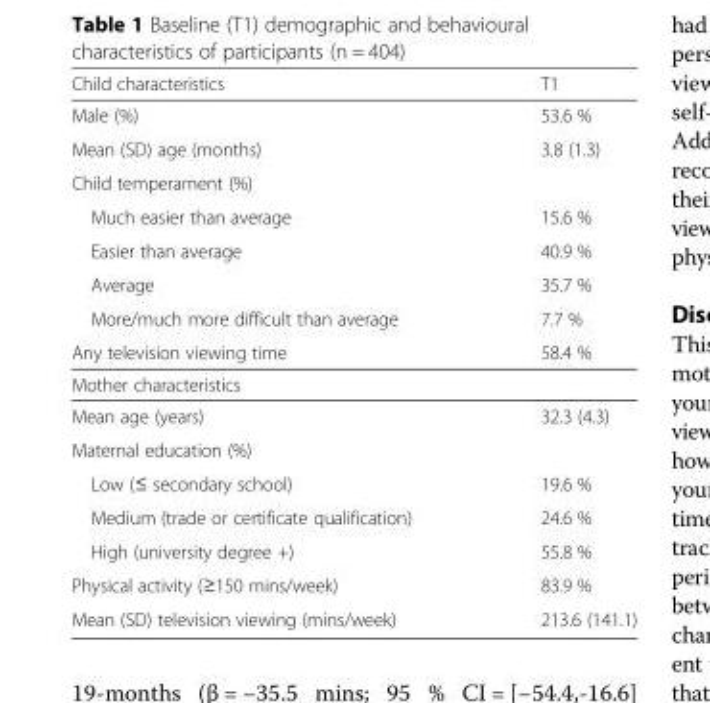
<table><thead><tr><td>Child characteristics</td><td>T1</td></tr></thead><tbody><tr><td>Male (%)</td><td>53.6 %</td></tr><tr><td>Mean (SD) age (months)</td><td>3.8 (1.3)</td></tr><tr><td colspan="2">Child temperament (%)</td></tr><tr><td>Much easier than average</td><td>15.6 %</td></tr><tr><td>Easier than average</td><td>40.9 %</td></tr><tr><td>Average</td><td>35.7 %</td></tr><tr><td>More/much more difficult than average</td><td>7.7 %</td></tr><tr><td>Any television viewing time</td><td>58.4 %</td></tr><tr><td colspan="2">Mother characteristics</td></tr><tr><td>Mean age (years)</td><td>32.3 (4.3)</td></tr><tr><td colspan="2">Maternal education (%)</td></tr><tr><td>Low (≤ secondary school)</td><td>19.6 %</td></tr><tr><td>Medium (trade or certificate qualification)</td><td>24.6 %</td></tr><tr><td>High (university degree +)</td><td>55.8 %</td></tr><tr><td>Physical activity (≥150 mins/week)</td><td>83.9 %</td></tr><tr><td>Mean (SD) television viewing (mins/week)</td><td>213.6 (141.1)</td></tr></tbody></table>